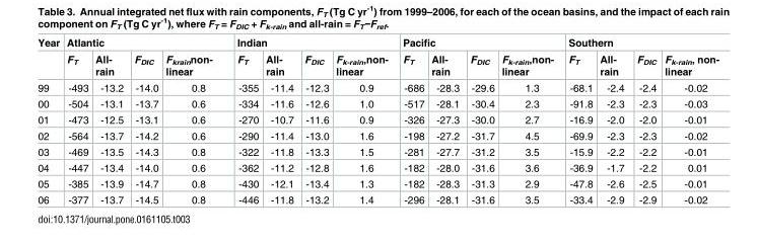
<table><thead><tr><td rowspan="2">Year</td><td colspan="4">Atlantic</td><td colspan="4">Indian</td><td colspan="4">Pacific</td><td colspan="4">Southern</td></tr><tr><td>F<sub>T</sub></td><td>All- rain</td><td>F<sub>DIC</sub></td><td>F<sub>krain</sub>non- linear</td><td>F<sub>T</sub></td><td>All- rain</td><td>F<sub>DIC</sub></td><td>F<sub>k-rain</sub>,non- linear</td><td>F<sub>T</sub></td><td>All- rain</td><td>F<sub>DIC</sub></td><td>F<sub>k-rain</sub>,non- linear</td><td>F<sub>T</sub></td><td>All- rain</td><td>F<sub>DIC</sub></td><td>F<sub>k-rain</sub>, non- linear</td></tr></thead><tbody><tr><td>99</td><td>-493</td><td>-13.2</td><td>-14.0</td><td>0.8</td><td>-355</td><td>-11.4</td><td>-12.3</td><td>0.9</td><td>-686</td><td>-28.3</td><td>-29.6</td><td>1.3</td><td>-68.1</td><td>-2.4</td><td>-2.4</td><td>-0.02</td></tr><tr><td>00</td><td>-504</td><td>-13.1</td><td>-13.7</td><td>0.6</td><td>-334</td><td>-11.6</td><td>-12.6</td><td>1.0</td><td>-517</td><td>-28.1</td><td>-30.4</td><td>2.3</td><td>-91.8</td><td>-2.3</td><td>-2.3</td><td>-0.03</td></tr><tr><td>01</td><td>-473</td><td>-12.5</td><td>-13.1</td><td>0.6</td><td>-270</td><td>-10.7</td><td>-11.6</td><td>0.9</td><td>-326</td><td>-27.3</td><td>-30.0</td><td>2.7</td><td>-16.9</td><td>-2.0</td><td>-2.0</td><td>-0.01</td></tr><tr><td>02</td><td>-564</td><td>-13.7</td><td>-14.2</td><td>0.6</td><td>-290</td><td>-11.4</td><td>-13.0</td><td>1.6</td><td>-198</td><td>-27.2</td><td>-31.7</td><td>4.5</td><td>-69.9</td><td>-2.3</td><td>-2.3</td><td>-0.02</td></tr><tr><td>03</td><td>-469</td><td>-13.5</td><td>-14.3</td><td>0.8</td><td>-322</td><td>-11.8</td><td>-13.3</td><td>1.5</td><td>-281</td><td>-27.7</td><td>-31.2</td><td>3.5</td><td>-15.9</td><td>-2.2</td><td>-2.2</td><td>-0.01</td></tr><tr><td>04</td><td>-447</td><td>-13.4</td><td>-14.0</td><td>0.6</td><td>-362</td><td>-11.2</td><td>-12.8</td><td>1.6</td><td>-182</td><td>-28.0</td><td>-31.6</td><td>3.6</td><td>-36.9</td><td>-1.7</td><td>-2.2</td><td>0.01</td></tr><tr><td>05</td><td>-385</td><td>-13.9</td><td>-14.7</td><td>0.8</td><td>-430</td><td>-12.1</td><td>-13.4</td><td>1.3</td><td>-182</td><td>-28.3</td><td>-31.3</td><td>2.9</td><td>-47.8</td><td>-2.6</td><td>-2.5</td><td>-0.01</td></tr><tr><td>06</td><td>-377</td><td>-13.7</td><td>-14.5</td><td>0.8</td><td>-446</td><td>-11.8</td><td>-13.2</td><td>1.4</td><td>-296</td><td>-28.1</td><td>-31.6</td><td>3.5</td><td>-33.4</td><td>-2.9</td><td>-2.9</td><td>-0.02</td></tr></tbody></table>